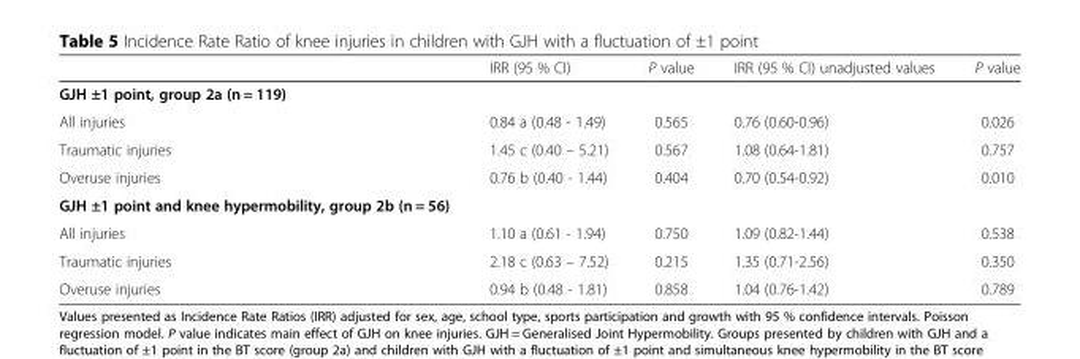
<table><thead><tr><td></td><td>IRR (95 % CI)</td><td>P value</td><td>IRR (95 % CI) unadjusted values</td><td>P value</td></tr></thead><tbody><tr><td colspan="5">GJH ±1 point, group 2a (n = 119)</td></tr><tr><td>All injuries</td><td>0.84 a (0.48 - 1.49)</td><td>0.565</td><td>0.76 (0.60-0.96)</td><td>0.026</td></tr><tr><td>Traumatic injuries</td><td>1.45 c (0.40 – 5.21)</td><td>0.567</td><td>1.08 (0.64-1.81)</td><td>0.757</td></tr><tr><td>Overuse injuries</td><td>0.76 b (0.40 - 1.44)</td><td>0.404</td><td>0.70 (0.54-0.92)</td><td>0.010</td></tr><tr><td colspan="5">GJH ±1 point and knee hypermobility, group 2b (n = 56)</td></tr><tr><td>All injuries</td><td>1.10 a (0.61 - 1.94)</td><td>0.750</td><td>1.09 (0.82-1.44)</td><td>0.538</td></tr><tr><td>Traumatic injuries</td><td>2.18 c (0.63 – 7.52)</td><td>0.215</td><td>1.35 (0.71-2.56)</td><td>0.350</td></tr><tr><td>Overuse injuries</td><td>0.94 b (0.48 - 1.81)</td><td>0.858</td><td>1.04 (0.76-1.42)</td><td>0.789</td></tr></tbody></table>